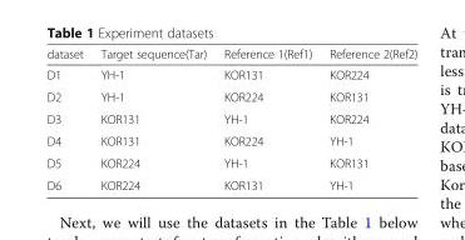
<table><thead><tr><td>dataset</td><td>Target sequence(Tar)</td><td>Reference 1(Ref1)</td><td>Reference 2(Ref2)</td></tr></thead><tbody><tr><td>D1</td><td>YH-1</td><td>KOR131</td><td>KOR224</td></tr><tr><td>D2</td><td>YH-1</td><td>KOR224</td><td>KOR131</td></tr><tr><td>D3</td><td>KOR131</td><td>YH-1</td><td>KOR224</td></tr><tr><td>D4</td><td>KOR131</td><td>KOR224</td><td>YH-1</td></tr><tr><td>D5</td><td>KOR224</td><td>YH-1</td><td>KOR131</td></tr><tr><td>D6</td><td>KOR224</td><td>KOR131</td><td>YH-1</td></tr></tbody></table>